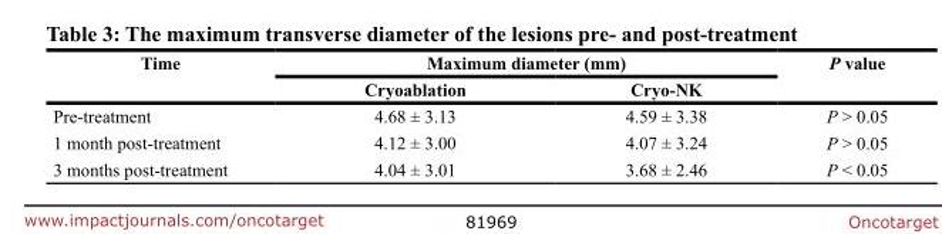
<table><thead><tr><td rowspan="2">Time</td><td colspan="2">Maximum diameter (mm)</td><td rowspan="2">P value</td></tr><tr><td>Cryoablation</td><td>Cryo-NK</td></tr></thead><tbody><tr><td>Pre-treatment</td><td>4.68 ± 3.13</td><td>4.59 ± 3.38</td><td>P &gt; 0.05</td></tr><tr><td>1 month post-treatment</td><td>4.12 ± 3.00</td><td>4.07 ± 3.24</td><td>P &gt; 0.05</td></tr><tr><td>3 months post-treatment</td><td>4.04 ± 3.01</td><td>3.68 ± 2.46</td><td>P &lt; 0.05</td></tr></tbody></table>